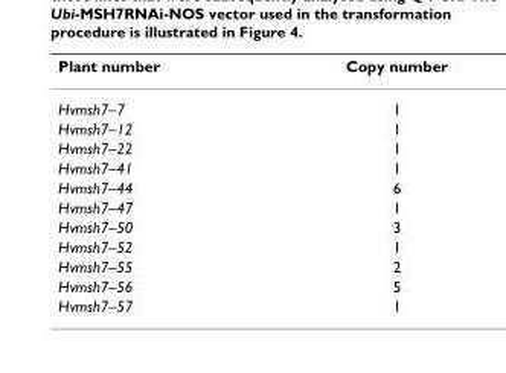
<table><thead><tr><td>Plant number</td><td>Copy number</td></tr></thead><tbody><tr><td>Hvmsh7–7</td><td>1</td></tr><tr><td>Hvmsh7–12</td><td>1</td></tr><tr><td>Hvmsh7–22</td><td>1</td></tr><tr><td>Hvmsh7–41</td><td>1</td></tr><tr><td>Hvmsh7–44</td><td>6</td></tr><tr><td>Hvmsh7–47</td><td>1</td></tr><tr><td>Hvmsh7–50</td><td>3</td></tr><tr><td>Hvmsh7–52</td><td>1</td></tr><tr><td>Hvmsh7–55</td><td>2</td></tr><tr><td>Hvmsh7–56</td><td>5</td></tr><tr><td>Hvmsh7–57</td><td>1</td></tr></tbody></table>